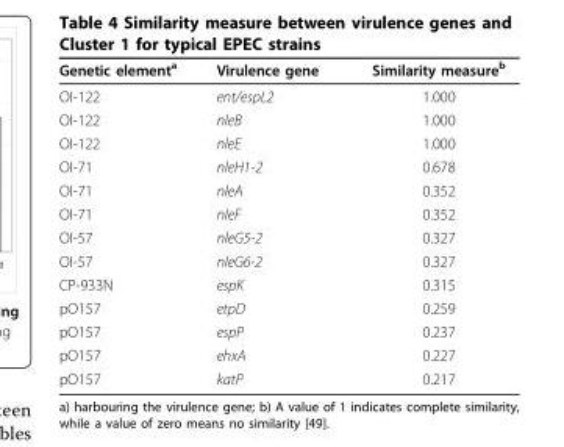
<table><thead><tr><td>Genetic element<sup>a</sup></td><td>Virulence gene</td><td>Similarity measure<sup>b</sup></td></tr></thead><tbody><tr><td>OI-122</td><td>ent/espL2</td><td>1.000</td></tr><tr><td>OI-122</td><td>nleB</td><td>1.000</td></tr><tr><td>OI-122</td><td>nleE</td><td>1.000</td></tr><tr><td>OI-71</td><td>nleH1-2</td><td>0.678</td></tr><tr><td>OI-71</td><td>nleA</td><td>0.352</td></tr><tr><td>OI-71</td><td>nleF</td><td>0.352</td></tr><tr><td>OI-57</td><td>nleG5-2</td><td>0.327</td></tr><tr><td>OI-57</td><td>nleG6-2</td><td>0.327</td></tr><tr><td>CP-933N</td><td>espK</td><td>0.315</td></tr><tr><td>pO157</td><td>etpD</td><td>0.259</td></tr><tr><td>pO157</td><td>espP</td><td>0.237</td></tr><tr><td>pO157</td><td>ehxA</td><td>0.227</td></tr><tr><td>pO157</td><td>katP</td><td>0.217</td></tr></tbody></table>